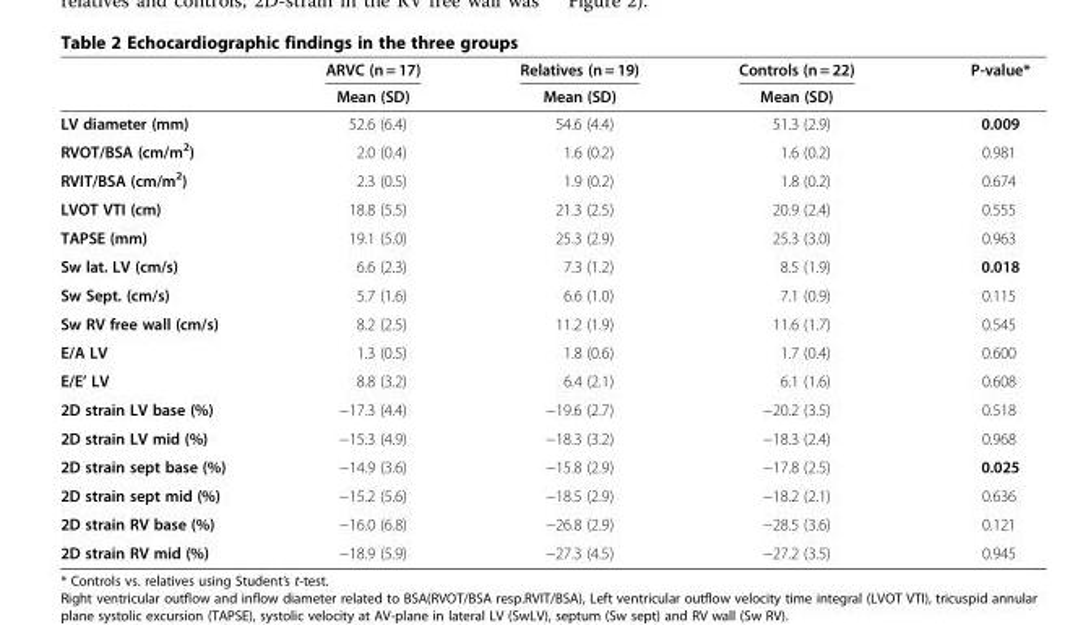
<table><thead><tr><td rowspan="2"></td><td rowspan="2">ARVC (n = 17) Mean (SD)</td><td rowspan="2">Relatives (n = 19) Mean (SD)</td><td rowspan="2">Controls (n = 22) Mean (SD)</td><td rowspan="2">P-value*</td></tr><tr></tr></thead><tbody><tr><td>LV diameter (mm)</td><td>52.6 (6.4)</td><td>54.6 (4.4)</td><td>51.3 (2.9)</td><td>0.009</td></tr><tr><td>RVOT/BSA (cm/m<sup>2</sup>)</td><td>2.0 (0.4)</td><td>1.6 (0.2)</td><td>1.6 (0.2)</td><td>0.981</td></tr><tr><td>RVIT/BSA (cm/m<sup>2</sup>)</td><td>2.3 (0.5)</td><td>1.9 (0.2)</td><td>1.8 (0.2)</td><td>0.674</td></tr><tr><td>LVOT VTI (cm)</td><td>18.8 (5.5)</td><td>21.3 (2.5)</td><td>20.9 (2.4)</td><td>0.555</td></tr><tr><td>TAPSE (mm)</td><td>19.1 (5.0)</td><td>25.3 (2.9)</td><td>25.3 (3.0)</td><td>0.963</td></tr><tr><td>Sw lat. LV (cm/s)</td><td>6.6 (2.3)</td><td>7.3 (1.2)</td><td>8.5 (1.9)</td><td>0.018</td></tr><tr><td>Sw Sept. (cm/s)</td><td>5.7 (1.6)</td><td>6.6 (1.0)</td><td>7.1 (0.9)</td><td>0.115</td></tr><tr><td>Sw RV free wall (cm/s)</td><td>8.2 (2.5)</td><td>11.2 (1.9)</td><td>11.6 (1.7)</td><td>0.545</td></tr><tr><td>E/A LV</td><td>1.3 (0.5)</td><td>1.8 (0.6)</td><td>1.7 (0.4)</td><td>0.600</td></tr><tr><td>E/E’ LV</td><td>8.8 (3.2)</td><td>6.4 (2.1)</td><td>6.1 (1.6)</td><td>0.608</td></tr><tr><td>2D strain LV base (%)</td><td>−17.3 (4.4)</td><td>−19.6 (2.7)</td><td>−20.2 (3.5)</td><td>0.518</td></tr><tr><td>2D strain LV mid (%)</td><td>−15.3 (4.9)</td><td>−18.3 (3.2)</td><td>−18.3 (2.4)</td><td>0.968</td></tr><tr><td>2D strain sept base (%)</td><td>−14.9 (3.6)</td><td>−15.8 (2.9)</td><td>−17.8 (2.5)</td><td>0.025</td></tr><tr><td>2D strain sept mid (%)</td><td>−15.2 (5.6)</td><td>−18.5 (2.9)</td><td>−18.2 (2.1)</td><td>0.636</td></tr><tr><td>2D strain RV base (%)</td><td>−16.0 (6.8)</td><td>−26.8 (2.9)</td><td>−28.5 (3.6)</td><td>0.121</td></tr><tr><td>2D strain RV mid (%)</td><td>−18.9 (5.9)</td><td>−27.3 (4.5)</td><td>−27.2 (3.5)</td><td>0.945</td></tr></tbody></table>